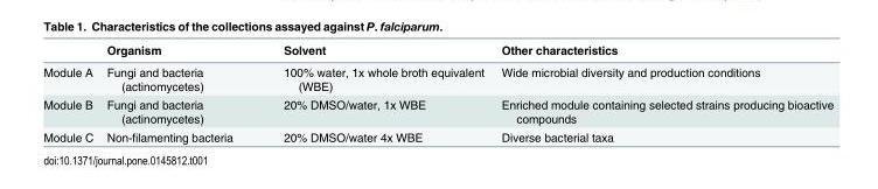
<table><thead><tr><td></td><td>Organism</td><td>Solvent</td><td>Other characteristics</td></tr></thead><tbody><tr><td>Module A</td><td>Fungi and bacteria (actinomycetes)</td><td>100% water, 1x whole broth equivalent (WBE)</td><td>Wide microbial diversity and production conditions</td></tr><tr><td>Module B</td><td>Fungi and bacteria (actinomycetes)</td><td>20% DMSO/water, 1x WBE</td><td>Enriched module containing selected strains producing bioactive compounds</td></tr><tr><td>Module C</td><td>Non-filamenting bacteria</td><td>20% DMSO/water 4x WBE</td><td>Diverse bacterial taxa</td></tr></tbody></table>